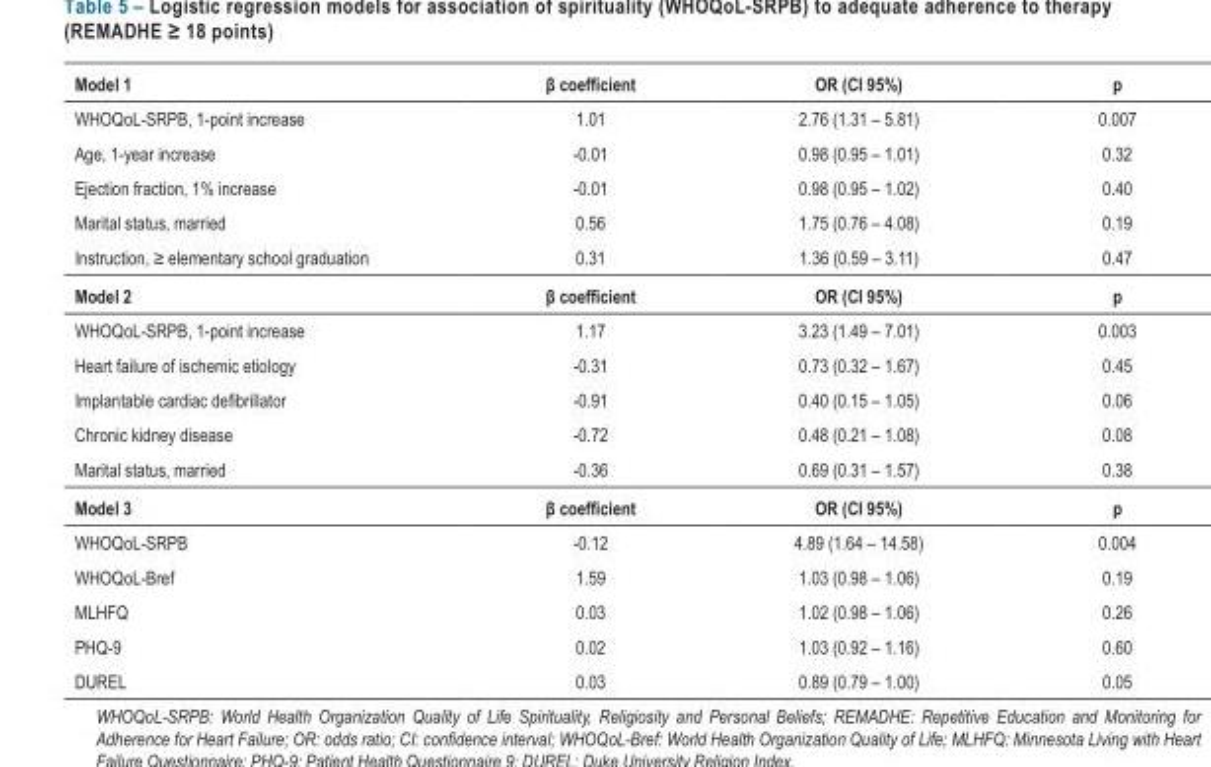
<table><tbody><tr><td>Model 1</td><td>β coefficient</td><td>OR (CI 95%)</td><td>p</td></tr><tr><td>WHOQoL-SRPB, 1-point increase</td><td>1.01</td><td>2.76 (1.31 – 5.81)</td><td>0.007</td></tr><tr><td>Age, 1-year increase</td><td>-0.01</td><td>0.98 (0.95 – 1.01)</td><td>0.32</td></tr><tr><td>Ejection fraction, 1% increase</td><td>-0.01</td><td>0.98 (0.95 – 1.02)</td><td>0.40</td></tr><tr><td>Marital status, married</td><td>0.56</td><td>1.75 (0.76 – 4.08)</td><td>0.19</td></tr><tr><td>Instruction, ≥ elementary school graduation</td><td>0.31</td><td>1.36 (0.59 – 3.11)</td><td>0.47</td></tr><tr><td>Model 2</td><td>β coefficient</td><td>OR (CI 95%)</td><td>p</td></tr><tr><td>WHOQoL-SRPB, 1-point increase</td><td>1.17</td><td>3.23 (1.49 – 7.01)</td><td>0.003</td></tr><tr><td>Heart failure of ischemic etiology</td><td>-0.31</td><td>0.73 (0.32 – 1.67)</td><td>0.45</td></tr><tr><td>Implantable cardiac defibrillator</td><td>-0.91</td><td>0.40 (0.15 – 1.05)</td><td>0.06</td></tr><tr><td>Chronic kidney disease</td><td>-0.72</td><td>0.48 (0.21 – 1.08)</td><td>0.08</td></tr><tr><td>Marital status, married</td><td>-0.36</td><td>0.69 (0.31 – 1.57)</td><td>0.38</td></tr><tr><td>Model 3</td><td>β coefficient</td><td>OR (CI 95%)</td><td>p</td></tr><tr><td>WHOQoL-SRPB</td><td>-0.12</td><td>4.89 (1.64 – 14.58)</td><td>0.004</td></tr><tr><td>WHOQoL-Bref</td><td>1.59</td><td>1.03 (0.98 – 1.06)</td><td>0.19</td></tr><tr><td>MLHFQ</td><td>0.03</td><td>1.02 (0.98 – 1.06)</td><td>0.26</td></tr><tr><td>PHQ-9</td><td>0.02</td><td>1.03 (0.92 – 1.16)</td><td>0.60</td></tr><tr><td>DUREL</td><td>0.03</td><td>0.89 (0.79 – 1.00)</td><td>0.05</td></tr></tbody></table>